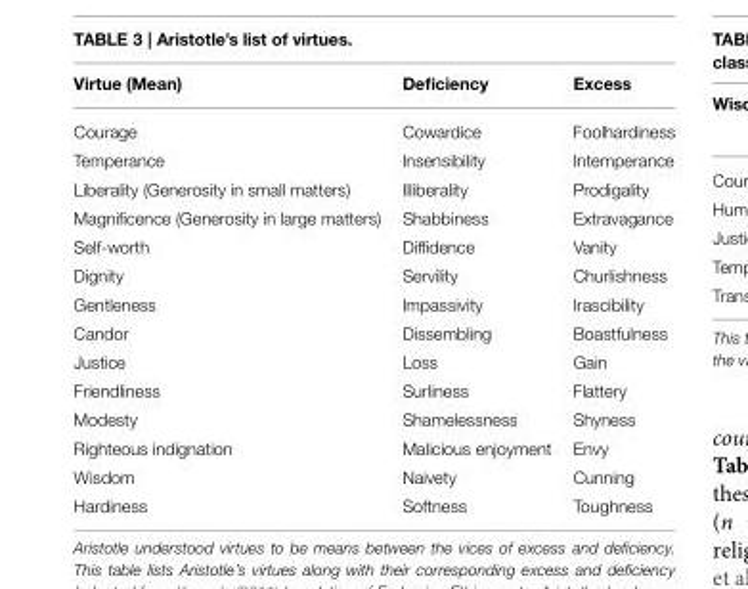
<table><thead><tr><td>Virtue (Mean)</td><td>Deficiency</td><td>Excess</td></tr></thead><tbody><tr><td>Courage</td><td>Cowardice</td><td>Foolhardiness</td></tr><tr><td>Temperance</td><td>Insensibility</td><td>Intemperance</td></tr><tr><td>Liberality (Generosity in small matters)</td><td>Illiberality</td><td>Prodigality</td></tr><tr><td>Magnificence (Generosity in large matters)</td><td>Shabbiness</td><td>Extravagance</td></tr><tr><td>Self-worth</td><td>Diffidence</td><td>Vanity</td></tr><tr><td>Dignity</td><td>Servility</td><td>Churlishness</td></tr><tr><td>Gentleness</td><td>Impassivity</td><td>Irascibility</td></tr><tr><td>Candor</td><td>Dissembling</td><td>Boastfulness</td></tr><tr><td>Justice</td><td>Loss</td><td>Gain</td></tr><tr><td>Friendliness</td><td>Surliness</td><td>Flattery</td></tr><tr><td>Modesty</td><td>Shamelessness</td><td>Shyness</td></tr><tr><td>Righteous indignation</td><td>Malicious enjoyment</td><td>Envy</td></tr><tr><td>Wisdom</td><td>Naivety</td><td>Cunning</td></tr><tr><td>Hardiness</td><td>Softness</td><td>Toughness</td></tr></tbody></table>